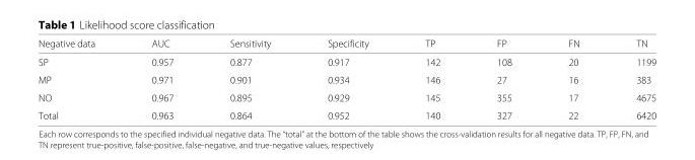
<table><thead><tr><td>Negative data</td><td>AUC</td><td>Sensitivity</td><td>Specificity</td><td>TP</td><td>FP</td><td>FN</td><td>TN</td></tr></thead><tbody><tr><td>SP</td><td>0.957</td><td>0.877</td><td>0.917</td><td>142</td><td>108</td><td>20</td><td>1199</td></tr><tr><td>MP</td><td>0.971</td><td>0.901</td><td>0.934</td><td>146</td><td>27</td><td>16</td><td>383</td></tr><tr><td>NO</td><td>0.967</td><td>0.895</td><td>0.929</td><td>145</td><td>355</td><td>17</td><td>4675</td></tr><tr><td>Total</td><td>0.963</td><td>0.864</td><td>0.952</td><td>140</td><td>327</td><td>22</td><td>6420</td></tr></tbody></table>